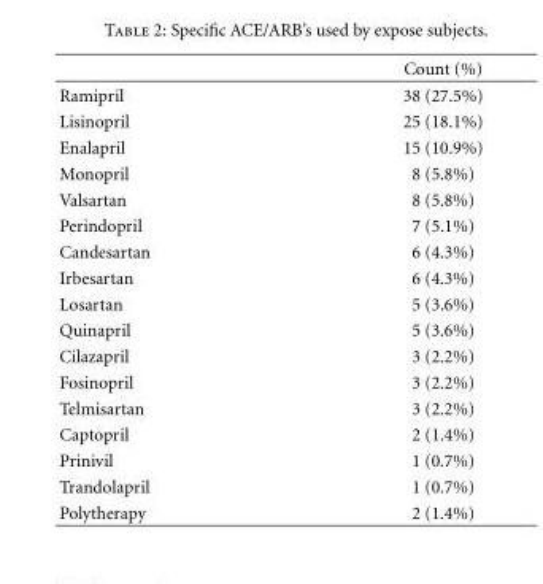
<table><thead><tr><td></td><td>Count (%)</td></tr></thead><tbody><tr><td>Ramipril</td><td>38 (27.5%)</td></tr><tr><td>Lisinopril</td><td>25 (18.1%)</td></tr><tr><td>Enalapril</td><td>15 (10.9%)</td></tr><tr><td>Monopril</td><td>8 (5.8%)</td></tr><tr><td>Valsartan</td><td>8 (5.8%)</td></tr><tr><td>Perindopril</td><td>7 (5.1%)</td></tr><tr><td>Candesartan</td><td>6 (4.3%)</td></tr><tr><td>Irbesartan</td><td>6 (4.3%)</td></tr><tr><td>Losartan</td><td>5 (3.6%)</td></tr><tr><td>Quinapril</td><td>5 (3.6%)</td></tr><tr><td>Cilazapril</td><td>3 (2.2%)</td></tr><tr><td>Fosinopril</td><td>3 (2.2%)</td></tr><tr><td>Telmisartan</td><td>3 (2.2%)</td></tr><tr><td>Captopril</td><td>2 (1.4%)</td></tr><tr><td>Prinivil</td><td>1 (0.7%)</td></tr><tr><td>Trandolapril</td><td>1 (0.7%)</td></tr><tr><td>Polytherapy</td><td>2 (1.4%)</td></tr></tbody></table>